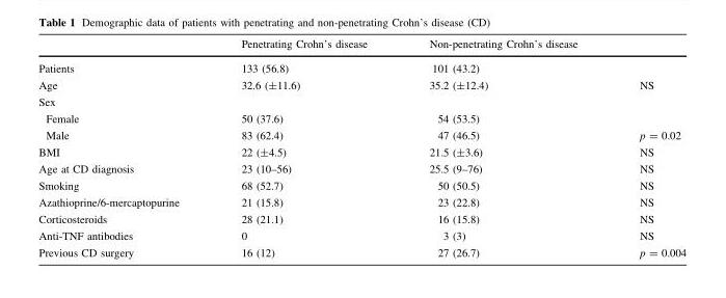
<table><thead><tr><td></td><td>Penetrating Crohn’s disease</td><td>Non-penetrating Crohn’s disease</td><td></td></tr></thead><tbody><tr><td>Patients</td><td>133 (56.8)</td><td>101 (43.2)</td><td></td></tr><tr><td>Age</td><td>32.6 (±11.6)</td><td>35.2 (±12.4)</td><td>NS</td></tr><tr><td colspan="4">Sex</td></tr><tr><td>Female</td><td>50 (37.6)</td><td>54 (53.5)</td><td></td></tr><tr><td>Male</td><td>83 (62.4)</td><td>47 (46.5)</td><td>p = 0.02</td></tr><tr><td>BMI</td><td>22 (±4.5)</td><td>21.5 (±3.6)</td><td>NS</td></tr><tr><td>Age at CD diagnosis</td><td>23 (10–56)</td><td>25.5 (9–76)</td><td>NS</td></tr><tr><td>Smoking</td><td>68 (52.7)</td><td>50 (50.5)</td><td>NS</td></tr><tr><td>Azathioprine/6-mercaptopurine</td><td>21 (15.8)</td><td>23 (22.8)</td><td>NS</td></tr><tr><td>Corticosteroids</td><td>28 (21.1)</td><td>16 (15.8)</td><td>NS</td></tr><tr><td>Anti-TNF antibodies</td><td>0</td><td>3 (3)</td><td>NS</td></tr><tr><td>Previous CD surgery</td><td>16 (12)</td><td>27 (26.7)</td><td>p = 0.004</td></tr></tbody></table>